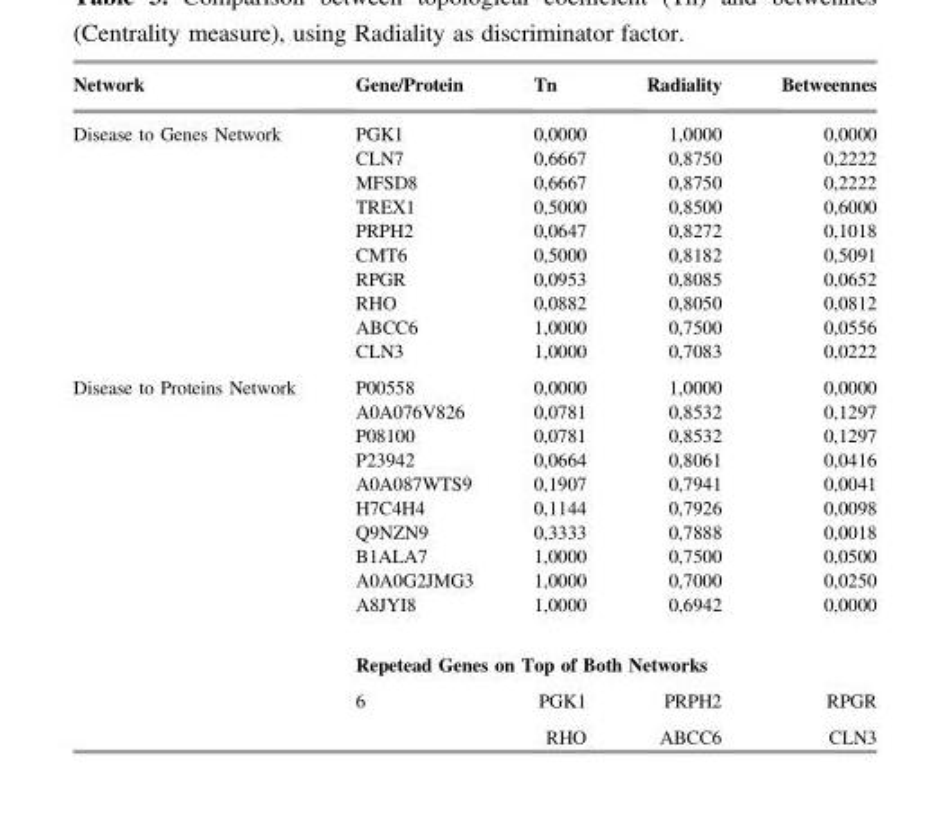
<table><thead><tr><td>Network</td><td>Gene/Protein</td><td>Tn</td><td>Radiality</td><td>Betweennes</td></tr></thead><tbody><tr><td rowspan="10">Disease to Genes Network</td><td>PGK1</td><td>0,0000</td><td>1,0000</td><td>0,0000</td></tr><tr><td>CLN7</td><td>0,6667</td><td>0,8750</td><td>0,2222</td></tr><tr><td>MFSD8</td><td>0,6667</td><td>0,8750</td><td>0,2222</td></tr><tr><td>TREX1</td><td>0,5000</td><td>0,8500</td><td>0,6000</td></tr><tr><td>PRPH2</td><td>0,0647</td><td>0,8272</td><td>0,1018</td></tr><tr><td>CMT6</td><td>0,5000</td><td>0,8182</td><td>0,5091</td></tr><tr><td>RPGR</td><td>0,0953</td><td>0,8085</td><td>0,0652</td></tr><tr><td>RHO</td><td>0,0882</td><td>0,8050</td><td>0,0812</td></tr><tr><td>ABCC6</td><td>1,0000</td><td>0,7500</td><td>0,0556</td></tr><tr><td>CLN3</td><td>1,0000</td><td>0,7083</td><td>0,0222</td></tr><tr><td rowspan="13">Disease to Proteins Network</td><td>P00558</td><td>0,0000</td><td>1,0000</td><td>0,0000</td></tr><tr><td>A0A076V826</td><td>0,0781</td><td>0,8532</td><td>0,1297</td></tr><tr><td>P08100</td><td>0,0781</td><td>0,8532</td><td>0,1297</td></tr><tr><td>P23942</td><td>0,0664</td><td>0,8061</td><td>0,0416</td></tr><tr><td>A0A087WTS9</td><td>0,1907</td><td>0,7941</td><td>0,0041</td></tr><tr><td>H7C4H4</td><td>0,1144</td><td>0,7926</td><td>0,0098</td></tr><tr><td>Q9NZN9</td><td>0,3333</td><td>0,7888</td><td>0,0018</td></tr><tr><td>B1ALA7</td><td>1,0000</td><td>0,7500</td><td>0,0500</td></tr><tr><td>A0A0G2JMG3</td><td>1,0000</td><td>0,7000</td><td>0,0250</td></tr><tr><td>A8JYI8</td><td>1,0000</td><td>0,6942</td><td>0,0000</td></tr><tr><td colspan="4">Repetead Genes on Top of Both Networks</td></tr><tr><td rowspan="2">6</td><td>PGK1</td><td>PRPH2</td><td>RPGR</td></tr><tr><td>RHO</td><td>ABCC6</td><td>CLN3</td></tr></tbody></table>